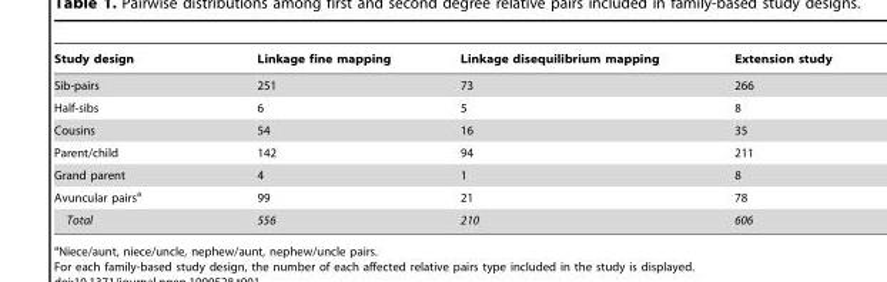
<table><thead><tr><td>Study design</td><td>Linkage fine mapping</td><td>Linkage disequilibrium mapping</td><td>Extension study</td></tr></thead><tbody><tr><td>Sib-pairs</td><td>251</td><td>73</td><td>266</td></tr><tr><td>Half-sibs</td><td>6</td><td>5</td><td>8</td></tr><tr><td>Cousins</td><td>54</td><td>16</td><td>35</td></tr><tr><td>Parent/child</td><td>142</td><td>94</td><td>211</td></tr><tr><td>Grand parent</td><td>4</td><td>1</td><td>8</td></tr><tr><td>Avuncular pairs<sup>a</sup></td><td>99</td><td>21</td><td>78</td></tr><tr><td>Total</td><td>556</td><td>210</td><td>606</td></tr></tbody></table>